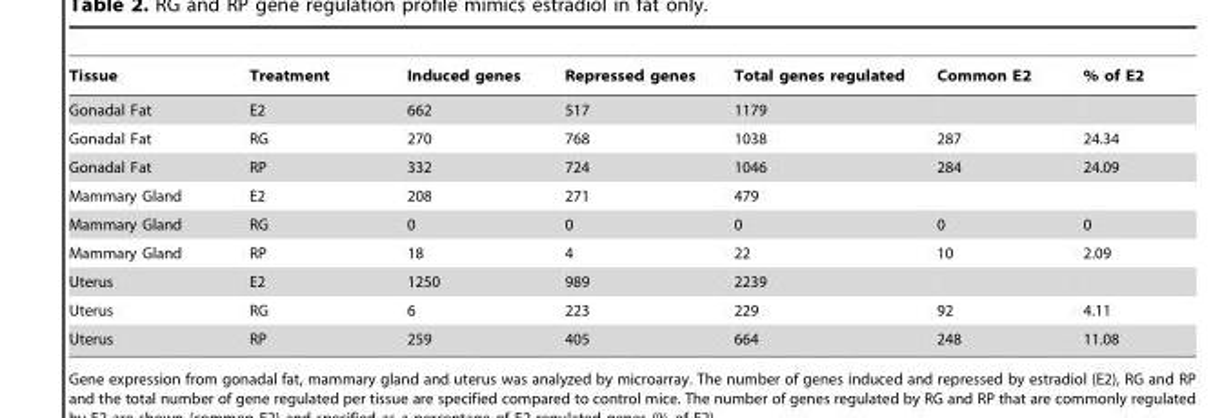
<table><thead><tr><td>Tissue</td><td>Treatment</td><td>Induced genes</td><td>Repressed genes</td><td>Total genes regulated</td><td>Common E2</td><td>% of E2</td></tr></thead><tbody><tr><td>Gonadal Fat</td><td>E2</td><td>662</td><td>517</td><td>1179</td><td></td><td></td></tr><tr><td>Gonadal Fat</td><td>RG</td><td>270</td><td>768</td><td>1038</td><td>287</td><td>24.34</td></tr><tr><td>Gonadal Fat</td><td>RP</td><td>332</td><td>724</td><td>1046</td><td>284</td><td>24.09</td></tr><tr><td>Mammary Gland</td><td>E2</td><td>208</td><td>271</td><td>479</td><td></td><td></td></tr><tr><td>Mammary Gland</td><td>RG</td><td>0</td><td>0</td><td>0</td><td>0</td><td>0</td></tr><tr><td>Mammary Gland</td><td>RP</td><td>18</td><td>4</td><td>22</td><td>10</td><td>2.09</td></tr><tr><td>Uterus</td><td>E2</td><td>1250</td><td>989</td><td>2239</td><td></td><td></td></tr><tr><td>Uterus</td><td>RG</td><td>6</td><td>223</td><td>229</td><td>92</td><td>4.11</td></tr><tr><td>Uterus</td><td>RP</td><td>259</td><td>405</td><td>664</td><td>248</td><td>11.08</td></tr></tbody></table>